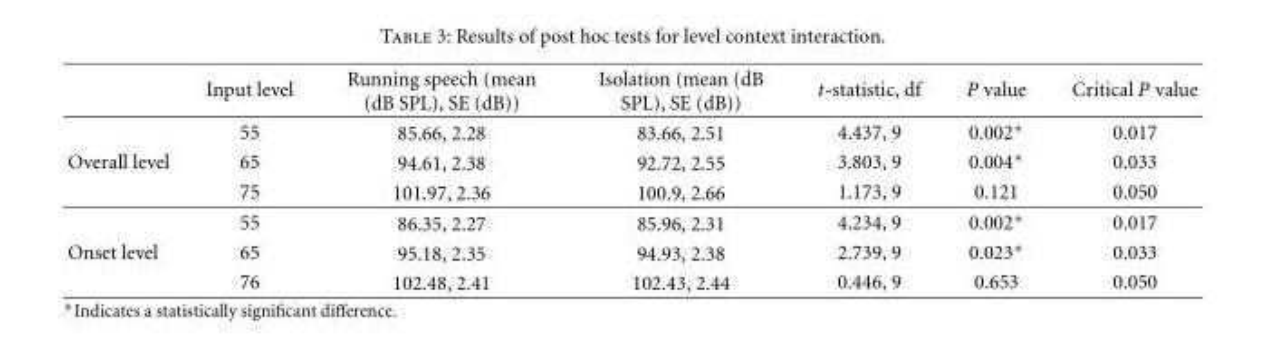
<table><thead><tr><td></td><td>Input level</td><td>Running speech (mean (dB SPL), SE (dB))</td><td>Isolation (mean (dB SPL), SE (dB))</td><td>t-statistic, df</td><td>P value</td><td>Critical P value</td></tr></thead><tbody><tr><td></td><td>55</td><td>85.66, 2.28</td><td>83.66, 2.51</td><td>4.437, 9</td><td>0.002∗</td><td>0.017</td></tr><tr><td rowspan="3">Overall level</td><td>65</td><td>94.61, 2.38</td><td>92.72, 2.55</td><td>3.803, 9</td><td>0.004∗</td><td>0.033</td></tr><tr><td>75</td><td>101.97, 2.36</td><td>100.9, 2.66</td><td>1.173, 9</td><td>0.121</td><td>0.050</td></tr><tr><td>55</td><td>86.35, 2.27</td><td>85.96, 2.31</td><td>4.234, 9</td><td>0.002∗</td><td>0.017</td></tr><tr><td rowspan="2">Onset level</td><td>65</td><td>95.18, 2.35</td><td>94.93, 2.38</td><td>2.739, 9</td><td>0.023∗</td><td>0.033</td></tr><tr><td>76</td><td>102.48, 2.41</td><td>102.43, 2.44</td><td>0.446, 9</td><td>0.653</td><td>0.050</td></tr></tbody></table>